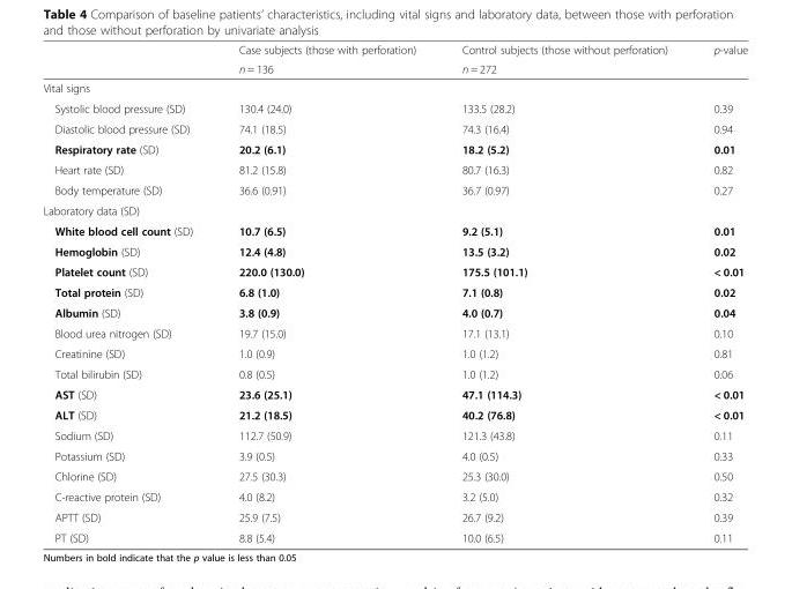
<table><thead><tr><td rowspan="2"></td><td rowspan="2">Case subjects (those with perforation) n = 136</td><td rowspan="2">Control subjects (those without perforation) n = 272</td><td rowspan="2">p-value</td></tr><tr></tr></thead><tbody><tr><td colspan="4">Vital signs</td></tr><tr><td>Systolic blood pressure (SD)</td><td>130.4 (24.0)</td><td>133.5 (28.2)</td><td>0.39</td></tr><tr><td>Diastolic blood pressure (SD)</td><td>74.1 (18.5)</td><td>74.3 (16.4)</td><td>0.94</td></tr><tr><td>Respiratory rate (SD)</td><td>20.2 (6.1)</td><td>18.2 (5.2)</td><td>0.01</td></tr><tr><td>Heart rate (SD)</td><td>81.2 (15.8)</td><td>80.7 (16.3)</td><td>0.82</td></tr><tr><td>Body temperature (SD)</td><td>36.6 (0.91)</td><td>36.7 (0.97)</td><td>0.27</td></tr><tr><td colspan="4">Laboratory data (SD)</td></tr><tr><td>White blood cell count (SD)</td><td>10.7 (6.5)</td><td>9.2 (5.1)</td><td>0.01</td></tr><tr><td>Hemoglobin (SD)</td><td>12.4 (4.8)</td><td>13.5 (3.2)</td><td>0.02</td></tr><tr><td>Platelet count (SD)</td><td>220.0 (130.0)</td><td>175.5 (101.1)</td><td>&lt; 0.01</td></tr><tr><td>Total protein (SD)</td><td>6.8 (1.0)</td><td>7.1 (0.8)</td><td>0.02</td></tr><tr><td>Albumin (SD)</td><td>3.8 (0.9)</td><td>4.0 (0.7)</td><td>0.04</td></tr><tr><td>Blood urea nitrogen (SD)</td><td>19.7 (15.0)</td><td>17.1 (13.1)</td><td>0.10</td></tr><tr><td>Creatinine (SD)</td><td>1.0 (0.9)</td><td>1.0 (1.2)</td><td>0.81</td></tr><tr><td>Total bilirubin (SD)</td><td>0.8 (0.5)</td><td>1.0 (1.2)</td><td>0.06</td></tr><tr><td>AST (SD)</td><td>23.6 (25.1)</td><td>47.1 (114.3)</td><td>&lt; 0.01</td></tr><tr><td>ALT (SD)</td><td>21.2 (18.5)</td><td>40.2 (76.8)</td><td>&lt; 0.01</td></tr><tr><td>Sodium (SD)</td><td>112.7 (50.9)</td><td>121.3 (43.8)</td><td>0.11</td></tr><tr><td>Potassium (SD)</td><td>3.9 (0.5)</td><td>4.0 (0.5)</td><td>0.33</td></tr><tr><td>Chlorine (SD)</td><td>27.5 (30.3)</td><td>25.3 (30.0)</td><td>0.50</td></tr><tr><td>C-reactive protein (SD)</td><td>4.0 (8.2)</td><td>3.2 (5.0)</td><td>0.32</td></tr><tr><td>APTT (SD)</td><td>25.9 (7.5)</td><td>26.7 (9.2)</td><td>0.39</td></tr><tr><td>PT (SD)</td><td>8.8 (5.4)</td><td>10.0 (6.5)</td><td>0.11</td></tr></tbody></table>